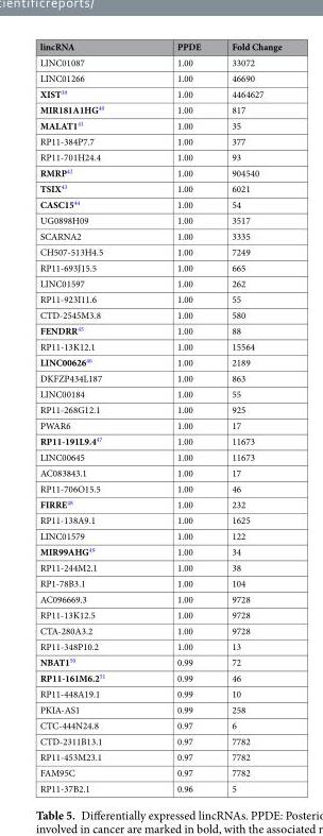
<table><thead><tr><td>lincRNA</td><td>PPDE</td><td>Fold Change</td></tr></thead><tbody><tr><td>LINC01087</td><td>1.00</td><td>33072</td></tr><tr><td>LINC01266</td><td>1.00</td><td>46690</td></tr><tr><td>XIST<sup>39</sup></td><td>1.00</td><td>4464627</td></tr><tr><td>MIR181A1HG<sup>40</sup></td><td>1.00</td><td>817</td></tr><tr><td>MALAT1<sup>41</sup></td><td>1.00</td><td>35</td></tr><tr><td>RP11-384P7.7</td><td>1.00</td><td>377</td></tr><tr><td>RP11-701H24.4</td><td>1.00</td><td>93</td></tr><tr><td>RMRP<sup>42</sup></td><td>1.00</td><td>904540</td></tr><tr><td>TSIX<sup>43</sup></td><td>1.00</td><td>6021</td></tr><tr><td>CASC15<sup>44</sup></td><td>1.00</td><td>54</td></tr><tr><td>UG0898H09</td><td>1.00</td><td>3517</td></tr><tr><td>SCARNA2</td><td>1.00</td><td>3335</td></tr><tr><td>CH507-513H4.5</td><td>1.00</td><td>7249</td></tr><tr><td>RP11-693J15.5</td><td>1.00</td><td>665</td></tr><tr><td>LINC01597</td><td>1.00</td><td>262</td></tr><tr><td>RP11-923I11.6</td><td>1.00</td><td>55</td></tr><tr><td>CTD-2545M3.8</td><td>1.00</td><td>580</td></tr><tr><td>FENDRR<sup>45</sup></td><td>1.00</td><td>88</td></tr><tr><td>RP11-13K12.1</td><td>1.00</td><td>15564</td></tr><tr><td>LINC00626<sup>46</sup></td><td>1.00</td><td>2189</td></tr><tr><td>DKFZP434L187</td><td>1.00</td><td>863</td></tr><tr><td>LINC00184</td><td>1.00</td><td>55</td></tr><tr><td>RP11-268G12.1</td><td>1.00</td><td>925</td></tr><tr><td>PWAR6</td><td>1.00</td><td>17</td></tr><tr><td>RP11-191L9.4<sup>47</sup></td><td>1.00</td><td>11673</td></tr><tr><td>LINC00645</td><td>1.00</td><td>11673</td></tr><tr><td>AC083843.1</td><td>1.00</td><td>17</td></tr><tr><td>RP11-706O15.5</td><td>1.00</td><td>46</td></tr><tr><td>FIRRE<sup>48</sup></td><td>1.00</td><td>232</td></tr><tr><td>RP11-138A9.1</td><td>1.00</td><td>1625</td></tr><tr><td>LINC01579</td><td>1.00</td><td>122</td></tr><tr><td>MIR99AHG<sup>49</sup></td><td>1.00</td><td>34</td></tr><tr><td>RP11-244M2.1</td><td>1.00</td><td>38</td></tr><tr><td>RP1-78B3.1</td><td>1.00</td><td>104</td></tr><tr><td>AC096669.3</td><td>1.00</td><td>9728</td></tr><tr><td>RP11-13K12.5</td><td>1.00</td><td>9728</td></tr><tr><td>CTA-280A3.2</td><td>1.00</td><td>9728</td></tr><tr><td>RP11-348P10.2</td><td>1.00</td><td>13</td></tr><tr><td>NBAT1<sup>50</sup></td><td>0.99</td><td>72</td></tr><tr><td>RP11-161M6.2<sup>51</sup></td><td>0.99</td><td>46</td></tr><tr><td>RP11-448A19.1</td><td>0.99</td><td>10</td></tr><tr><td>PKIA-AS1</td><td>0.99</td><td>258</td></tr><tr><td>CTC-444N24.8</td><td>0.97</td><td>6</td></tr><tr><td>CTD-2311B13.1</td><td>0.97</td><td>7782</td></tr><tr><td>RP11-453M23.1</td><td>0.97</td><td>7782</td></tr><tr><td>FAM95C</td><td>0.97</td><td>7782</td></tr><tr><td>RP11-37B2.1</td><td>0.96</td><td>5</td></tr></tbody></table>